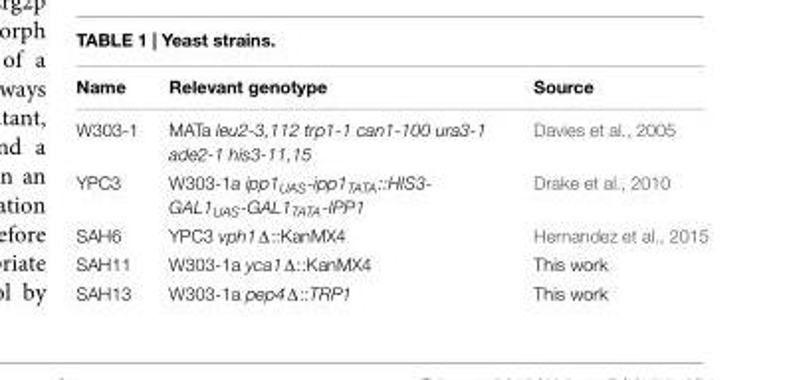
<table><thead><tr><td>Name</td><td>Relevant genotype</td><td>Source</td></tr></thead><tbody><tr><td>W303-1</td><td>MATa leu2-3,112 trp1-1 can1-100 ura3-1 ade2-1 his3-11,15</td><td>Davies et al., 2005</td></tr><tr><td>YPC3</td><td>W303-1a ipp1<sub>UAS</sub>-ipp1<sub>TATA</sub>::HIS3- GAL1<sub>UAS</sub>-GAL1<sub>TATA</sub>-IPP1</td><td>Drake et al., 2010</td></tr><tr><td>SAH6</td><td>YPC3 vph1Δ::KanMX4</td><td>Hernandez et al., 2015</td></tr><tr><td>SAH11</td><td>W303-1a yca1Δ::KanMX4</td><td>This work</td></tr><tr><td>SAH13</td><td>W303-1a pep4Δ::TRP1</td><td>This work</td></tr></tbody></table>